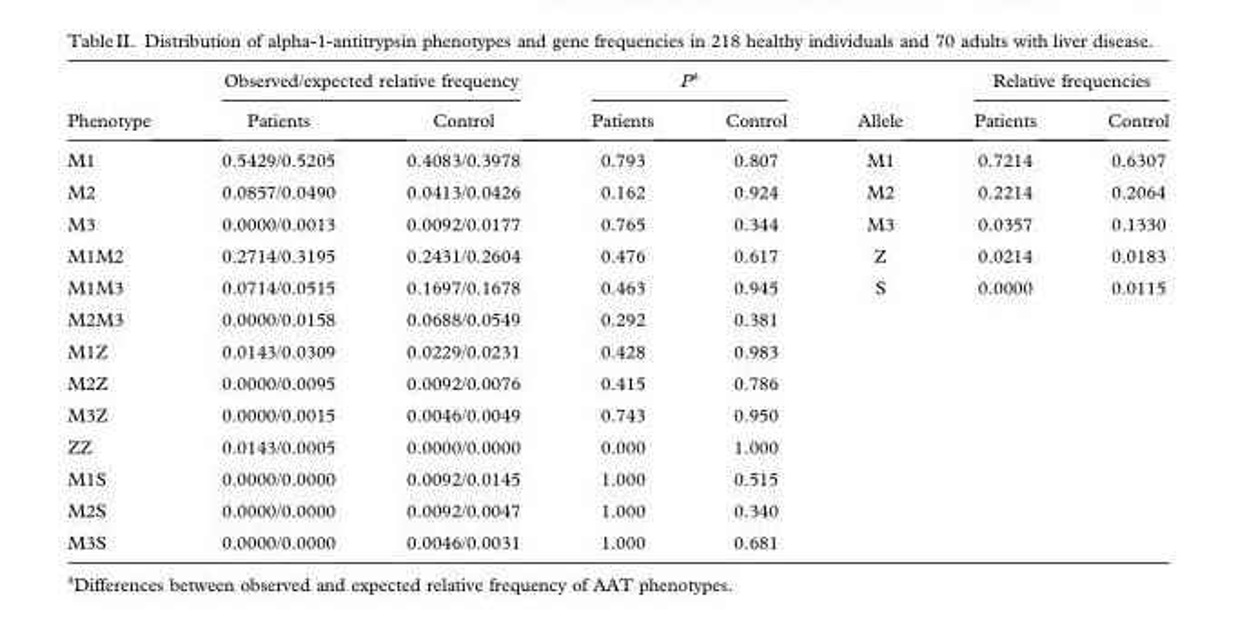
<table><thead><tr><td rowspan="2">Phenotype</td><td colspan="2">Observed/expected relative frequency</td><td colspan="2">P<sup>a</sup></td><td rowspan="2">Allele</td><td colspan="2">Relative frequencies</td></tr><tr><td>Patients</td><td>Control</td><td>Patients</td><td>Control</td><td>Patients</td><td>Control</td></tr></thead><tbody><tr><td>M1</td><td>0.5429/0.5205</td><td>0.4083/0.3978</td><td>0.793</td><td>0.807</td><td>M1</td><td>0.7214</td><td>0.6307</td></tr><tr><td>M2</td><td>0.0857/0.0490</td><td>0.0413/0.0426</td><td>0.162</td><td>0.924</td><td>M2</td><td>0.2214</td><td>0.2064</td></tr><tr><td>M3</td><td>0.0000/0.0013</td><td>0.0092/0.0177</td><td>0.765</td><td>0.344</td><td>M3</td><td>0.0357</td><td>0.1330</td></tr><tr><td>M1M2</td><td>0.2714/0.3195</td><td>0.2431/0.2604</td><td>0.476</td><td>0.617</td><td>Z</td><td>0.0214</td><td>0.0183</td></tr><tr><td>M1M3</td><td>0.0714/0.0515</td><td>0.1697/0.1678</td><td>0.463</td><td>0.945</td><td>S</td><td>0.0000</td><td>0.0115</td></tr><tr><td>M2M3</td><td>0.0000/0.0158</td><td>0.0688/0.0549</td><td>0.292</td><td>0.381</td><td></td><td></td><td></td></tr><tr><td>M1Z</td><td>0.0143/0.0309</td><td>0.0229/0.0231</td><td>0.428</td><td>0.983</td><td></td><td></td><td></td></tr><tr><td>M2Z</td><td>0.0000/0.0095</td><td>0.0092/0.0076</td><td>0.415</td><td>0.786</td><td></td><td></td><td></td></tr><tr><td>M3Z</td><td>0.0000/0.0015</td><td>0.0046/0.0049</td><td>0.743</td><td>0.950</td><td></td><td></td><td></td></tr><tr><td>ZZ</td><td>0.0143/0.0005</td><td>0.0000/0.0000</td><td>0.000</td><td>1.000</td><td></td><td></td><td></td></tr><tr><td>M1S</td><td>0.0000/0.0000</td><td>0.0092/0.0145</td><td>1.000</td><td>0.515</td><td></td><td></td><td></td></tr><tr><td>M2S</td><td>0.0000/0.0000</td><td>0.0092/0.0047</td><td>1.000</td><td>0.340</td><td></td><td></td><td></td></tr><tr><td>M3S</td><td>0.0000/0.0000</td><td>0.0046/0.0031</td><td>1.000</td><td>0.681</td><td></td><td></td><td></td></tr></tbody></table>